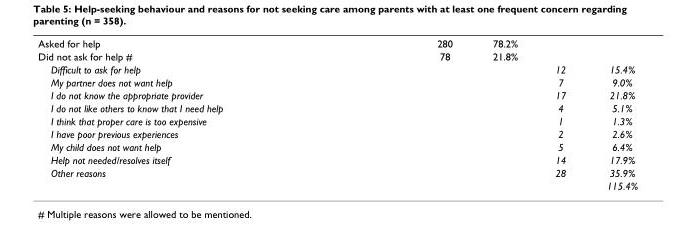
<table><tbody><tr><td>Asked for help</td><td>280</td><td>78.2%</td><td></td><td></td></tr><tr><td>Did not ask for help #</td><td>78</td><td>21.8%</td><td></td><td></td></tr><tr><td>Difficult to ask for help</td><td></td><td></td><td>12</td><td>15.4%</td></tr><tr><td>My partner does not want help</td><td></td><td></td><td>7</td><td>9.0%</td></tr><tr><td>I do not know the appropriate provider</td><td></td><td></td><td>17</td><td>21.8%</td></tr><tr><td>I do not like others to know that I need help</td><td></td><td></td><td>4</td><td>5.1%</td></tr><tr><td>I think that proper care is too expensive</td><td></td><td></td><td>1</td><td>1.3%</td></tr><tr><td>I have poor previous experiences</td><td></td><td></td><td>2</td><td>2.6%</td></tr><tr><td>My child does not want help</td><td></td><td></td><td>5</td><td>6.4%</td></tr><tr><td>Help not needed/resolves itself</td><td></td><td></td><td>14</td><td>17.9%</td></tr><tr><td rowspan="2">Other reasons</td><td></td><td></td><td>28</td><td>35.9%</td></tr><tr><td></td><td></td><td></td><td>115.4%</td></tr></tbody></table>